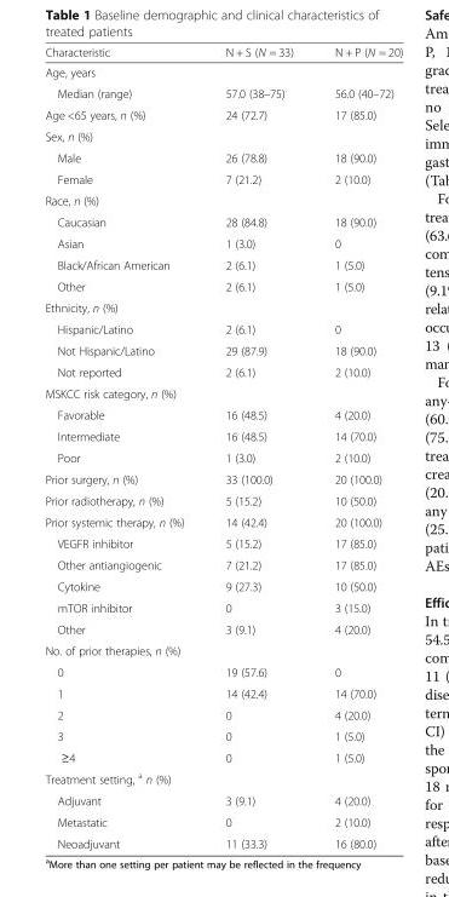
<table><thead><tr><td>Characteristic</td><td>N + S (N = 33)</td><td>N + P (N = 20)</td></tr></thead><tbody><tr><td colspan="3">Age, years</td></tr><tr><td>Median (range)</td><td>57.0 (38–75)</td><td>56.0 (40–72)</td></tr><tr><td>Age &lt;65 years, n (%)</td><td>24 (72.7)</td><td>17 (85.0)</td></tr><tr><td colspan="3">Sex, n (%)</td></tr><tr><td>Male</td><td>26 (78.8)</td><td>18 (90.0)</td></tr><tr><td>Female</td><td>7 (21.2)</td><td>2 (10.0)</td></tr><tr><td colspan="3">Race, n (%)</td></tr><tr><td>Caucasian</td><td>28 (84.8)</td><td>18 (90.0)</td></tr><tr><td>Asian</td><td>1 (3.0)</td><td>0</td></tr><tr><td>Black/African American</td><td>2 (6.1)</td><td>1 (5.0)</td></tr><tr><td>Other</td><td>2 (6.1)</td><td>1 (5.0)</td></tr><tr><td colspan="3">Ethnicity, n (%)</td></tr><tr><td>Hispanic/Latino</td><td>2 (6.1)</td><td>0</td></tr><tr><td>Not Hispanic/Latino</td><td>29 (87.9)</td><td>18 (90.0)</td></tr><tr><td>Not reported</td><td>2 (6.1)</td><td>2 (10.0)</td></tr><tr><td colspan="3">MSKCC risk category, n (%)</td></tr><tr><td>Favorable</td><td>16 (48.5)</td><td>4 (20.0)</td></tr><tr><td>Intermediate</td><td>16 (48.5)</td><td>14 (70.0)</td></tr><tr><td>Poor</td><td>1 (3.0)</td><td>2 (10.0)</td></tr><tr><td>Prior surgery, n (%)</td><td>33 (100.0)</td><td>20 (100.0)</td></tr><tr><td>Prior radiotherapy, n (%)</td><td>5 (15.2)</td><td>10 (50.0)</td></tr><tr><td>Prior systemic therapy, n (%)</td><td>14 (42.4)</td><td>20 (100.0)</td></tr><tr><td>VEGFR inhibitor</td><td>5 (15.2)</td><td>17 (85.0)</td></tr><tr><td>Other antiangiogenic</td><td>7 (21.2)</td><td>17 (85.0)</td></tr><tr><td>Cytokine</td><td>9 (27.3)</td><td>10 (50.0)</td></tr><tr><td>mTOR inhibitor</td><td>0</td><td>3 (15.0)</td></tr><tr><td>Other</td><td>3 (9.1)</td><td>4 (20.0)</td></tr><tr><td colspan="3">No. of prior therapies, n (%)</td></tr><tr><td>0</td><td>19 (57.6)</td><td>0</td></tr><tr><td>1</td><td>14 (42.4)</td><td>14 (70.0)</td></tr><tr><td>2</td><td>0</td><td>4 (20.0)</td></tr><tr><td>3</td><td>0</td><td>1 (5.0)</td></tr><tr><td>≥4</td><td>0</td><td>1 (5.0)</td></tr><tr><td colspan="3">Treatment setting, <sup>a</sup> n (%)</td></tr><tr><td>Adjuvant</td><td>3 (9.1)</td><td>4 (20.0)</td></tr><tr><td>Metastatic</td><td>0</td><td>2 (10.0)</td></tr><tr><td>Neoadjuvant</td><td>11 (33.3)</td><td>16 (80.0)</td></tr></tbody></table>